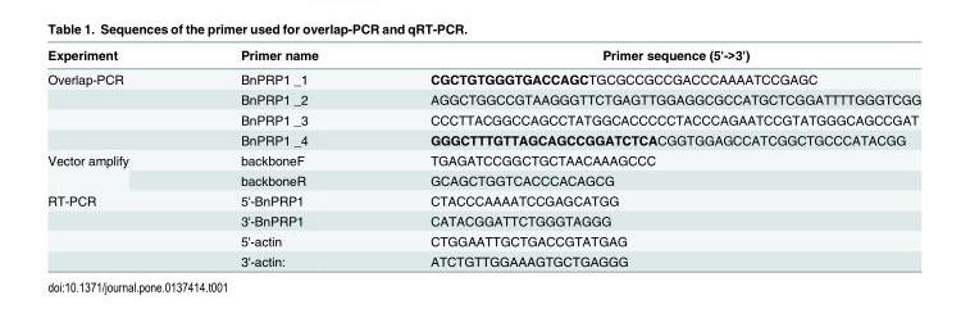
<table><thead><tr><td>Experiment</td><td>Primer name</td><td>Primer sequence (5&#x27;-&gt;3&#x27;)</td></tr></thead><tbody><tr><td rowspan="4">Overlap-PCR</td><td>BnPRP1 _1</td><td>CGCTGTGGGTGACCAGCTGCGCCGCCGACCCAAAATCCGAGC</td></tr><tr><td>BnPRP1 _2</td><td>AGGCTGGCCGTAAGGGTTCTGAGTTGGAGGCGCCATGCTCGGATTTTGGGTCGG</td></tr><tr><td>BnPRP1 _3</td><td>CCCTTACGGCCAGCCTATGGCACCCCCTACCCAGAATCCGTATGGGCAGCCGAT</td></tr><tr><td>BnPRP1 _4</td><td>GGGCTTTGTTAGCAGCCGGATCTCACGGTGGAGCCATCGGCTGCCCATACGG</td></tr><tr><td rowspan="2">Vector amplify</td><td>backboneF</td><td>TGAGATCCGGCTGCTAACAAAGCCC</td></tr><tr><td>backboneR</td><td>GCAGCTGGTCACCCACAGCG</td></tr><tr><td rowspan="4">RT-PCR</td><td>5&#x27;-BnPRP1</td><td>CTACCCAAAATCCGAGCATGG</td></tr><tr><td>3&#x27;-BnPRP1</td><td>CATACGGATTCTGGGTAGGG</td></tr><tr><td>5&#x27;-actin</td><td>CTGGAATTGCTGACCGTATGAG</td></tr><tr><td>3&#x27;-actin:</td><td>ATCTGTTGGAAAGTGCTGAGGG</td></tr></tbody></table>